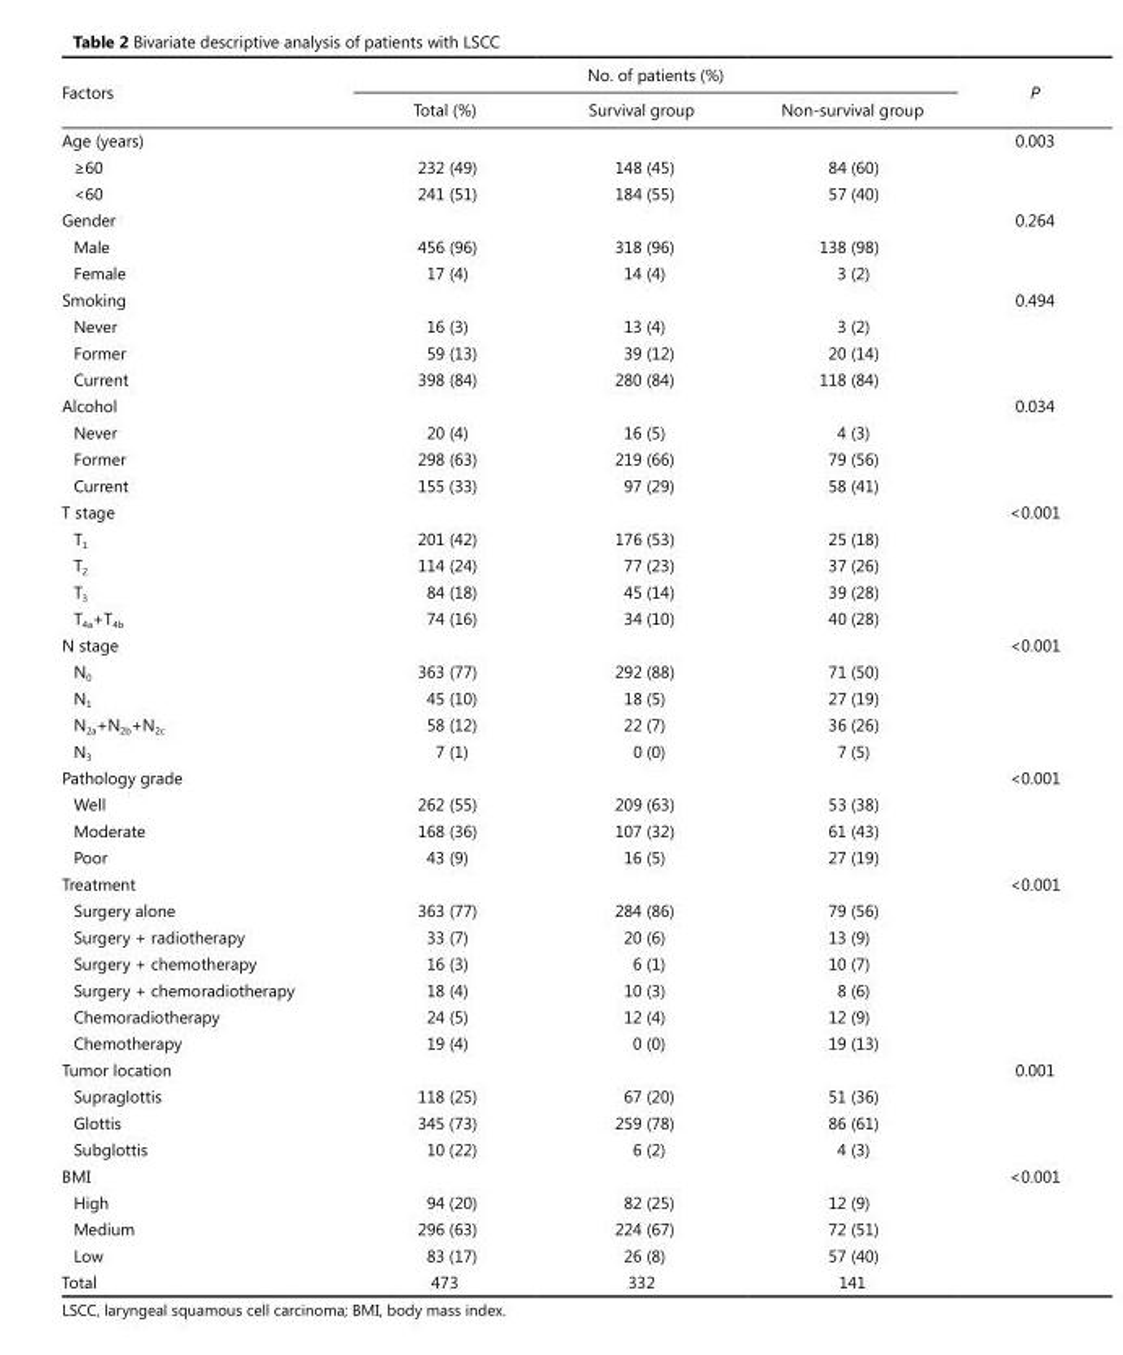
<table><thead><tr><td rowspan="2">Factors</td><td colspan="3">No. of patients (%)</td><td rowspan="2">P</td></tr><tr><td>Total (%)</td><td>Survival group</td><td>Non-survival group</td></tr></thead><tbody><tr><td>Age (years)</td><td></td><td></td><td></td><td>0.003</td></tr><tr><td>≥60</td><td>232 (49)</td><td>148 (45)</td><td>84 (60)</td><td></td></tr><tr><td>&lt;60</td><td>241 (51)</td><td>184 (55)</td><td>57 (40)</td><td></td></tr><tr><td>Gender</td><td></td><td></td><td></td><td>0.264</td></tr><tr><td>Male</td><td>456 (96)</td><td>318 (96)</td><td>138 (98)</td><td></td></tr><tr><td>Female</td><td>17 (4)</td><td>14 (4)</td><td>3 (2)</td><td></td></tr><tr><td>Smoking</td><td></td><td></td><td></td><td>0.494</td></tr><tr><td>Never</td><td>16 (3)</td><td>13 (4)</td><td>3 (2)</td><td></td></tr><tr><td>Former</td><td>59 (13)</td><td>39 (12)</td><td>20 (14)</td><td></td></tr><tr><td>Current</td><td>398 (84)</td><td>280 (84)</td><td>118 (84)</td><td></td></tr><tr><td>Alcohol</td><td></td><td></td><td></td><td>0.034</td></tr><tr><td>Never</td><td>20 (4)</td><td>16 (5)</td><td>4 (3)</td><td></td></tr><tr><td>Former</td><td>298 (63)</td><td>219 (66)</td><td>79 (56)</td><td></td></tr><tr><td>Current</td><td>155 (33)</td><td>97 (29)</td><td>58 (41)</td><td></td></tr><tr><td>T stage</td><td></td><td></td><td></td><td>&lt;0.001</td></tr><tr><td>T<sub>1</sub></td><td>201 (42)</td><td>176 (53)</td><td>25 (18)</td><td></td></tr><tr><td>T<sub>2</sub></td><td>114 (24)</td><td>77 (23)</td><td>37 (26)</td><td></td></tr><tr><td>T<sub>3</sub></td><td>84 (18)</td><td>45 (14)</td><td>39 (28)</td><td></td></tr><tr><td>T<sub>4a</sub>+T<sub>4b</sub></td><td>74 (16)</td><td>34 (10)</td><td>40 (28)</td><td></td></tr><tr><td>N stage</td><td></td><td></td><td></td><td>&lt;0.001</td></tr><tr><td>N<sub>0</sub></td><td>363 (77)</td><td>292 (88)</td><td>71 (50)</td><td></td></tr><tr><td>N<sub>1</sub></td><td>45 (10)</td><td>18 (5)</td><td>27 (19)</td><td></td></tr><tr><td>N<sub>2a</sub>+N<sub>2b</sub>+N<sub>2c</sub></td><td>58 (12)</td><td>22 (7)</td><td>36 (26)</td><td></td></tr><tr><td>N<sub>3</sub></td><td>7 (1)</td><td>0 (0)</td><td>7 (5)</td><td></td></tr><tr><td>Pathology grade</td><td></td><td></td><td></td><td>&lt;0.001</td></tr><tr><td>Well</td><td>262 (55)</td><td>209 (63)</td><td>53 (38)</td><td></td></tr><tr><td>Moderate</td><td>168 (36)</td><td>107 (32)</td><td>61 (43)</td><td></td></tr><tr><td>Poor</td><td>43 (9)</td><td>16 (5)</td><td>27 (19)</td><td></td></tr><tr><td>Treatment</td><td></td><td></td><td></td><td>&lt;0.001</td></tr><tr><td>Surgery alone</td><td>363 (77)</td><td>284 (86)</td><td>79 (56)</td><td></td></tr><tr><td>Surgery + radiotherapy</td><td>33 (7)</td><td>20 (6)</td><td>13 (9)</td><td></td></tr><tr><td>Surgery + chemotherapy</td><td>16 (3)</td><td>6 (1)</td><td>10 (7)</td><td></td></tr><tr><td>Surgery + chemoradiotherapy</td><td>18 (4)</td><td>10 (3)</td><td>8 (6)</td><td></td></tr><tr><td>Chemoradiotherapy</td><td>24 (5)</td><td>12 (4)</td><td>12 (9)</td><td></td></tr><tr><td>Chemotherapy</td><td>19 (4)</td><td>0 (0)</td><td>19 (13)</td><td></td></tr><tr><td>Tumor location</td><td></td><td></td><td></td><td>0.001</td></tr><tr><td>Supraglottis</td><td>118 (25)</td><td>67 (20)</td><td>51 (36)</td><td></td></tr><tr><td>Glottis</td><td>345 (73)</td><td>259 (78)</td><td>86 (61)</td><td></td></tr><tr><td>Subglottis</td><td>10 (22)</td><td>6 (2)</td><td>4 (3)</td><td></td></tr><tr><td>BMI</td><td></td><td></td><td></td><td>&lt;0.001</td></tr><tr><td>High</td><td>94 (20)</td><td>82 (25)</td><td>12 (9)</td><td></td></tr><tr><td>Medium</td><td>296 (63)</td><td>224 (67)</td><td>72 (51)</td><td></td></tr><tr><td>Low</td><td>83 (17)</td><td>26 (8)</td><td>57 (40)</td><td></td></tr><tr><td>Total</td><td>473</td><td>332</td><td>141</td><td></td></tr></tbody></table>